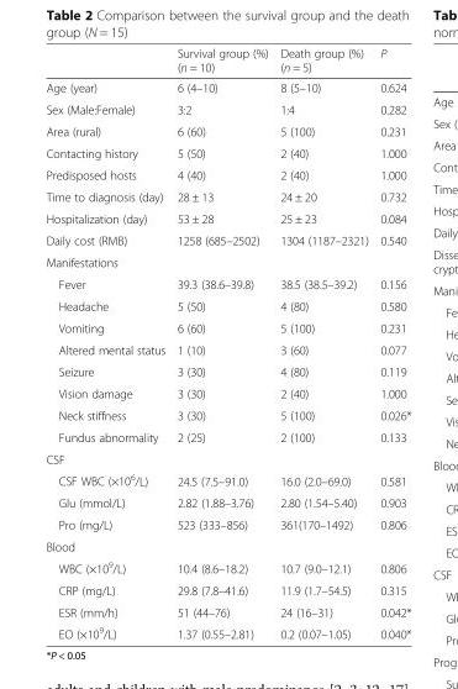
<table><thead><tr><td></td><td>Survival group (%) (n = 10)</td><td>Death group (%) (n = 5)</td><td>P</td></tr></thead><tbody><tr><td>Age (year)</td><td>6 (4–10)</td><td>8 (5–10)</td><td>0.624</td></tr><tr><td>Sex (Male:Female)</td><td>3:2</td><td>1:4</td><td>0.282</td></tr><tr><td>Area (rural)</td><td>6 (60)</td><td>5 (100)</td><td>0.231</td></tr><tr><td>Contacting history</td><td>5 (50)</td><td>2 (40)</td><td>1.000</td></tr><tr><td>Predisposed hosts</td><td>4 (40)</td><td>2 (40)</td><td>1.000</td></tr><tr><td>Time to diagnosis (day)</td><td>28 ± 13</td><td>24 ± 20</td><td>0.732</td></tr><tr><td>Hospitalization (day)</td><td>53 ± 28</td><td>25 ± 23</td><td>0.084</td></tr><tr><td>Daily cost (RMB)</td><td>1258 (685–2502)</td><td>1304 (1187–2321)</td><td>0.540</td></tr><tr><td colspan="4">Manifestations</td></tr><tr><td>Fever</td><td>39.3 (38.6–39.8)</td><td>38.5 (38.5–39.2)</td><td>0.156</td></tr><tr><td>Headache</td><td>5 (50)</td><td>4 (80)</td><td>0.580</td></tr><tr><td>Vomiting</td><td>6 (60)</td><td>5 (100)</td><td>0.231</td></tr><tr><td>Altered mental status</td><td>1 (10)</td><td>3 (60)</td><td>0.077</td></tr><tr><td>Seizure</td><td>3 (30)</td><td>4 (80)</td><td>0.119</td></tr><tr><td>Vision damage</td><td>3 (30)</td><td>2 (40)</td><td>1.000</td></tr><tr><td>Neck stiffness</td><td>3 (30)</td><td>5 (100)</td><td>0.026*</td></tr><tr><td>Fundus abnormality</td><td>2 (25)</td><td>2 (100)</td><td>0.133</td></tr><tr><td colspan="4">CSF</td></tr><tr><td>CSF WBC (×10<sup>6</sup>/L)</td><td>24.5 (7.5–91.0)</td><td>16.0 (2.0–69.0)</td><td>0.581</td></tr><tr><td>Glu (mmol/L)</td><td>2.82 (1.88–3.76)</td><td>2.80 (1.54–5.40)</td><td>0.903</td></tr><tr><td>Pro (mg/L)</td><td>523 (333–856)</td><td>361(170–1492)</td><td>0.806</td></tr><tr><td colspan="4">Blood</td></tr><tr><td>WBC (×10<sup>9</sup>/L)</td><td>10.4 (8.6–18.2)</td><td>10.7 (9.0–12.1)</td><td>0.806</td></tr><tr><td>CRP (mg/L)</td><td>29.8 (7.8–41.6)</td><td>11.9 (1.7–54.5)</td><td>0.315</td></tr><tr><td>ESR (mm/h)</td><td>51 (44–76)</td><td>24 (16–31)</td><td>0.042*</td></tr><tr><td>EO (×10<sup>9</sup>/L)</td><td>1.37 (0.55–2.81)</td><td>0.2 (0.07–1.05)</td><td>0.040*</td></tr></tbody></table>